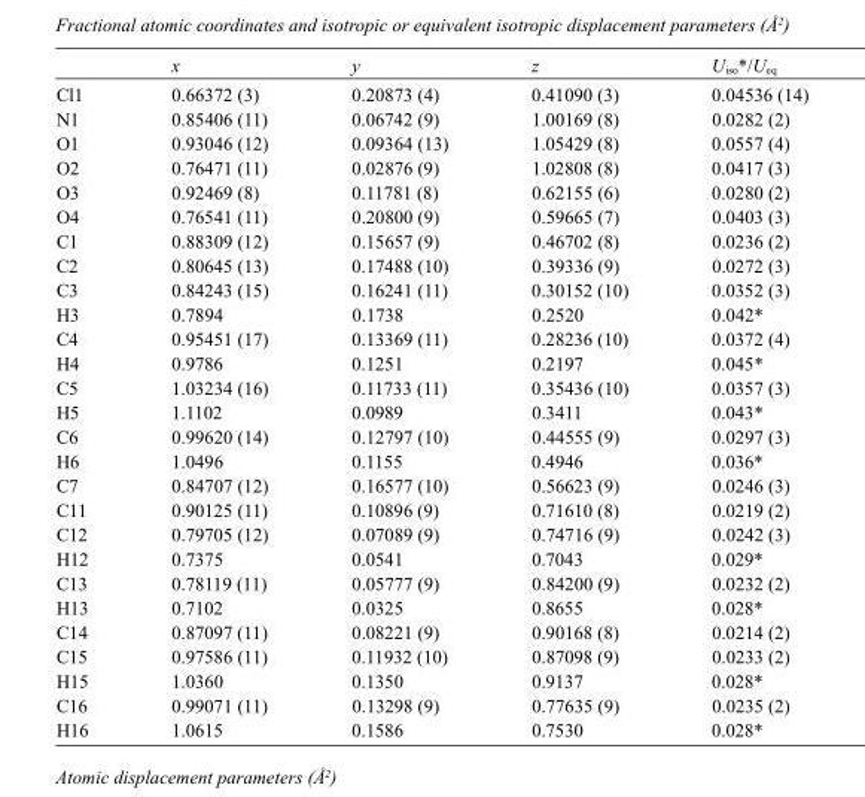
<table><thead><tr><td></td><td>x</td><td>y</td><td>z</td><td>U<sub>iso</sub>*/U<sub>eq</sub></td></tr></thead><tbody><tr><td>Cl1</td><td>0.66372 (3)</td><td>0.20873 (4)</td><td>0.41090 (3)</td><td>0.04536 (14)</td></tr><tr><td>N1</td><td>0.85406 (11)</td><td>0.06742 (9)</td><td>1.00169 (8)</td><td>0.0282 (2)</td></tr><tr><td>O1</td><td>0.93046 (12)</td><td>0.09364 (13)</td><td>1.05429 (8)</td><td>0.0557 (4)</td></tr><tr><td>O2</td><td>0.76471 (11)</td><td>0.02876 (9)</td><td>1.02808 (8)</td><td>0.0417 (3)</td></tr><tr><td>O3</td><td>0.92469 (8)</td><td>0.11781 (8)</td><td>0.62155 (6)</td><td>0.0280 (2)</td></tr><tr><td>O4</td><td>0.76541 (11)</td><td>0.20800 (9)</td><td>0.59665 (7)</td><td>0.0403 (3)</td></tr><tr><td>C1</td><td>0.88309 (12)</td><td>0.15657 (9)</td><td>0.46702 (8)</td><td>0.0236 (2)</td></tr><tr><td>C2</td><td>0.80645 (13)</td><td>0.17488 (10)</td><td>0.39336 (9)</td><td>0.0272 (3)</td></tr><tr><td>C3</td><td>0.84243 (15)</td><td>0.16241 (11)</td><td>0.30152 (10)</td><td>0.0352 (3)</td></tr><tr><td>H3</td><td>0.7894</td><td>0.1738</td><td>0.2520</td><td>0.042*</td></tr><tr><td>C4</td><td>0.95451 (17)</td><td>0.13369 (11)</td><td>0.28236 (10)</td><td>0.0372 (4)</td></tr><tr><td>H4</td><td>0.9786</td><td>0.1251</td><td>0.2197</td><td>0.045*</td></tr><tr><td>C5</td><td>1.03234 (16)</td><td>0.11733 (11)</td><td>0.35436 (10)</td><td>0.0357 (3)</td></tr><tr><td>H5</td><td>1.1102</td><td>0.0989</td><td>0.3411</td><td>0.043*</td></tr><tr><td>C6</td><td>0.99620 (14)</td><td>0.12797 (10)</td><td>0.44555 (9)</td><td>0.0297 (3)</td></tr><tr><td>H6</td><td>1.0496</td><td>0.1155</td><td>0.4946</td><td>0.036*</td></tr><tr><td>C7</td><td>0.84707 (12)</td><td>0.16577 (10)</td><td>0.56623 (9)</td><td>0.0246 (3)</td></tr><tr><td>C11</td><td>0.90125 (11)</td><td>0.10896 (9)</td><td>0.71610 (8)</td><td>0.0219 (2)</td></tr><tr><td>C12</td><td>0.79705 (12)</td><td>0.07089 (9)</td><td>0.74716 (9)</td><td>0.0242 (3)</td></tr><tr><td>H12</td><td>0.7375</td><td>0.0541</td><td>0.7043</td><td>0.029*</td></tr><tr><td>C13</td><td>0.78119 (11)</td><td>0.05777 (9)</td><td>0.84200 (9)</td><td>0.0232 (2)</td></tr><tr><td>H13</td><td>0.7102</td><td>0.0325</td><td>0.8655</td><td>0.028*</td></tr><tr><td>C14</td><td>0.87097 (11)</td><td>0.08221 (9)</td><td>0.90168 (8)</td><td>0.0214 (2)</td></tr><tr><td>C15</td><td>0.97586 (11)</td><td>0.11932 (10)</td><td>0.87098 (9)</td><td>0.0233 (2)</td></tr><tr><td>H15</td><td>1.0360</td><td>0.1350</td><td>0.9137</td><td>0.028*</td></tr><tr><td>C16</td><td>0.99071 (11)</td><td>0.13298 (9)</td><td>0.77635 (9)</td><td>0.0235 (2)</td></tr><tr><td>H16</td><td>1.0615</td><td>0.1586</td><td>0.7530</td><td>0.028*</td></tr></tbody></table>